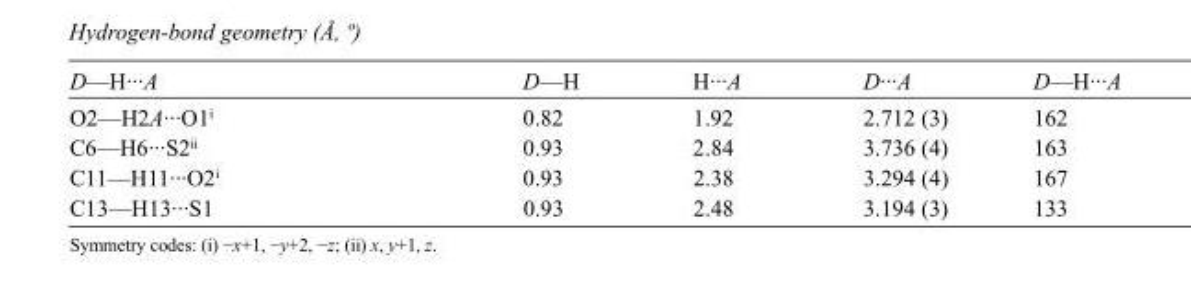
<table><tbody><tr><td>D—H···A</td><td>D—H</td><td>H···A</td><td>D···A</td><td>D—H···A</td></tr><tr><td>O2—H2A···O1<sup>i</sup></td><td>0.82</td><td>1.92</td><td>2.712 (3)</td><td>162</td></tr><tr><td>C6—H6···S2<sup>ii</sup></td><td>0.93</td><td>2.84</td><td>3.736 (4)</td><td>163</td></tr><tr><td>C11—H11···O2<sup>i</sup></td><td>0.93</td><td>2.38</td><td>3.294 (4)</td><td>167</td></tr><tr><td>C13—H13···S1</td><td>0.93</td><td>2.48</td><td>3.194 (3)</td><td>133</td></tr></tbody></table>